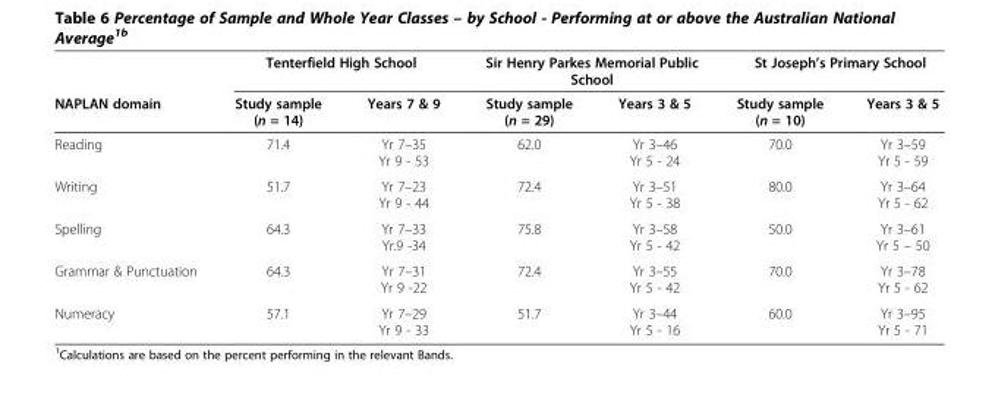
<table><thead><tr><td rowspan="2">NAPLAN domain</td><td colspan="2">Tenterfield High School</td><td colspan="2">Sir Henry Parkes Memorial Public School</td><td colspan="2">St Joseph’s Primary School</td></tr><tr><td>Study sample (n = 14)</td><td>Years 7 &amp; 9</td><td>Study sample (n = 29)</td><td>Years 3 &amp; 5</td><td>Study sample (n = 10)</td><td>Years 3 &amp; 5</td></tr></thead><tbody><tr><td>Reading</td><td>71.4</td><td>Yr 7–35 Yr 9 - 53</td><td>62.0</td><td>Yr 3–46 Yr 5 - 24</td><td>70.0</td><td>Yr 3–59 Yr 5 - 59</td></tr><tr><td>Writing</td><td>51.7</td><td>Yr 7–23 Yr 9 - 44</td><td>72.4</td><td>Yr 3–51 Yr 5 - 38</td><td>80.0</td><td>Yr 3–64 Yr 5 - 62</td></tr><tr><td>Spelling</td><td>64.3</td><td>Yr 7–33 Yr.9 -34</td><td>75.8</td><td>Yr 3–58 Yr 5 - 42</td><td>50.0</td><td>Yr 3–61 Yr 5 – 50</td></tr><tr><td>Grammar &amp; Punctuation</td><td>64.3</td><td>Yr 7–31 Yr 9 -22</td><td>72.4</td><td>Yr 3–55 Yr 5 - 42</td><td>70.0</td><td>Yr 3–78 Yr 5 - 62</td></tr><tr><td>Numeracy</td><td>57.1</td><td>Yr 7–29 Yr 9 - 33</td><td>51.7</td><td>Yr 3–44 Yr 5 - 16</td><td>60.0</td><td>Yr 3–95 Yr 5 - 71</td></tr></tbody></table>